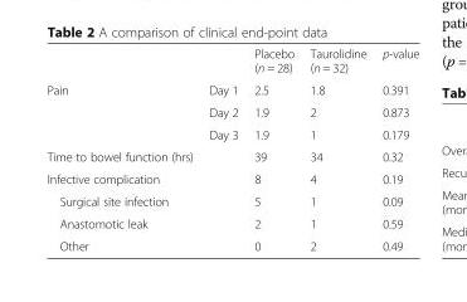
<table><thead><tr><td></td><td></td><td>Placebo (n = 28)</td><td>Taurolidine (n = 32)</td><td>p-value</td></tr></thead><tbody><tr><td rowspan="3">Pain</td><td>Day 1</td><td>2.5</td><td>1.8</td><td>0.391</td></tr><tr><td>Day 2</td><td>1.9</td><td>2</td><td>0.873</td></tr><tr><td>Day 3</td><td>1.9</td><td>1</td><td>0.179</td></tr><tr><td>Time to bowel function (hrs)</td><td></td><td>39</td><td>34</td><td>0.32</td></tr><tr><td>Infective complication</td><td></td><td>8</td><td>4</td><td>0.19</td></tr><tr><td>Surgical site infection</td><td></td><td>5</td><td>1</td><td>0.09</td></tr><tr><td>Anastomotic leak</td><td></td><td>2</td><td>1</td><td>0.59</td></tr><tr><td>Other</td><td></td><td>0</td><td>2</td><td>0.49</td></tr></tbody></table>